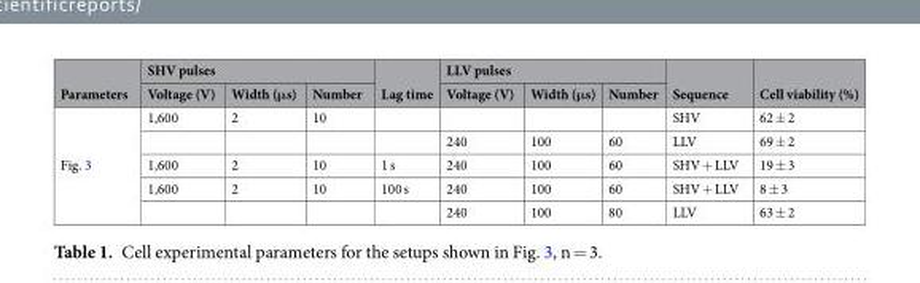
<table><thead><tr><td rowspan="2">Parameters</td><td colspan="3">SHV pulses</td><td rowspan="2">Lag time</td><td colspan="3">LLV pulses</td><td rowspan="2">Sequence</td><td rowspan="2">Cell viability (%)</td></tr><tr><td>Voltage (V)</td><td>Width (μs)</td><td>Number</td><td>Voltage (V)</td><td>Width (μs)</td><td>Number</td></tr></thead><tbody><tr><td rowspan="5">Fig. 3</td><td>1,600</td><td>2</td><td>10</td><td></td><td></td><td></td><td></td><td>SHV</td><td>62 ± 2</td></tr><tr><td></td><td></td><td></td><td></td><td>240</td><td>100</td><td>60</td><td>LLV</td><td>69 ± 2</td></tr><tr><td>1,600</td><td>2</td><td>10</td><td>1 s</td><td>240</td><td>100</td><td>60</td><td>SHV + LLV</td><td>19 ± 3</td></tr><tr><td>1,600</td><td>2</td><td>10</td><td>100 s</td><td>240</td><td>100</td><td>60</td><td>SHV + LLV</td><td>8 ± 3</td></tr><tr><td></td><td></td><td></td><td></td><td>240</td><td>100</td><td>80</td><td>LLV</td><td>63 ± 2</td></tr></tbody></table>